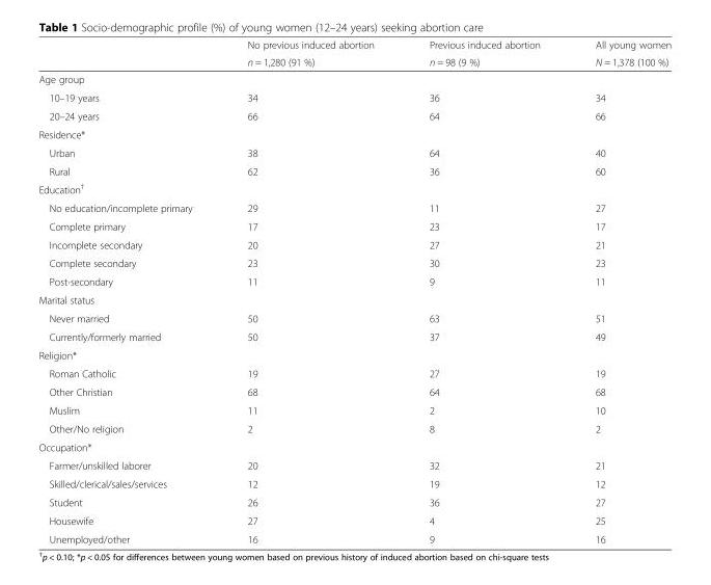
<table><thead><tr><td rowspan="2"></td><td rowspan="2">No previous induced abortion n = 1,280 (91 %)</td><td rowspan="2">Previous induced abortion n = 98 (9 %)</td><td rowspan="2">All young women N = 1,378 (100 %)</td></tr><tr></tr></thead><tbody><tr><td colspan="4">Age group</td></tr><tr><td>10–19 years</td><td>34</td><td>36</td><td>34</td></tr><tr><td>20–24 years</td><td>66</td><td>64</td><td>66</td></tr><tr><td colspan="4">Residence*</td></tr><tr><td>Urban</td><td>38</td><td>64</td><td>40</td></tr><tr><td>Rural</td><td>62</td><td>36</td><td>60</td></tr><tr><td colspan="4">Education<sup>†</sup></td></tr><tr><td>No education/incomplete primary</td><td>29</td><td>11</td><td>27</td></tr><tr><td>Complete primary</td><td>17</td><td>23</td><td>17</td></tr><tr><td>Incomplete secondary</td><td>20</td><td>27</td><td>21</td></tr><tr><td>Complete secondary</td><td>23</td><td>30</td><td>23</td></tr><tr><td>Post-secondary</td><td>11</td><td>9</td><td>11</td></tr><tr><td colspan="4">Marital status</td></tr><tr><td>Never married</td><td>50</td><td>63</td><td>51</td></tr><tr><td>Currently/formerly married</td><td>50</td><td>37</td><td>49</td></tr><tr><td colspan="4">Religion*</td></tr><tr><td>Roman Catholic</td><td>19</td><td>27</td><td>19</td></tr><tr><td>Other Christian</td><td>68</td><td>64</td><td>68</td></tr><tr><td>Muslim</td><td>11</td><td>2</td><td>10</td></tr><tr><td>Other/No religion</td><td>2</td><td>8</td><td>2</td></tr><tr><td colspan="4">Occupation*</td></tr><tr><td>Farmer/unskilled laborer</td><td>20</td><td>32</td><td>21</td></tr><tr><td>Skilled/clerical/sales/services</td><td>12</td><td>19</td><td>12</td></tr><tr><td>Student</td><td>26</td><td>36</td><td>27</td></tr><tr><td>Housewife</td><td>27</td><td>4</td><td>25</td></tr><tr><td>Unemployed/other</td><td>16</td><td>9</td><td>16</td></tr></tbody></table>